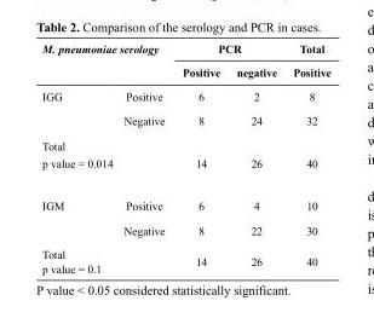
<table><thead><tr><td colspan="2">M. pneumoniae serology</td><td colspan="2">PCR</td><td rowspan="2">Total Positive</td></tr><tr><td></td><td></td><td>Positive</td><td>negative</td></tr></thead><tbody><tr><td rowspan="2">IGG</td><td>Positive</td><td>6</td><td>2</td><td>8</td></tr><tr><td>Negative</td><td>8</td><td>24</td><td>32</td></tr><tr><td colspan="2">Total p value = 0.014</td><td>14</td><td>26</td><td>40</td></tr><tr><td rowspan="2">IGM</td><td>Positive</td><td>6</td><td>4</td><td>10</td></tr><tr><td>Negative</td><td>8</td><td>22</td><td>30</td></tr><tr><td colspan="2">Total p value = 0.1</td><td>14</td><td>26</td><td>40</td></tr></tbody></table>